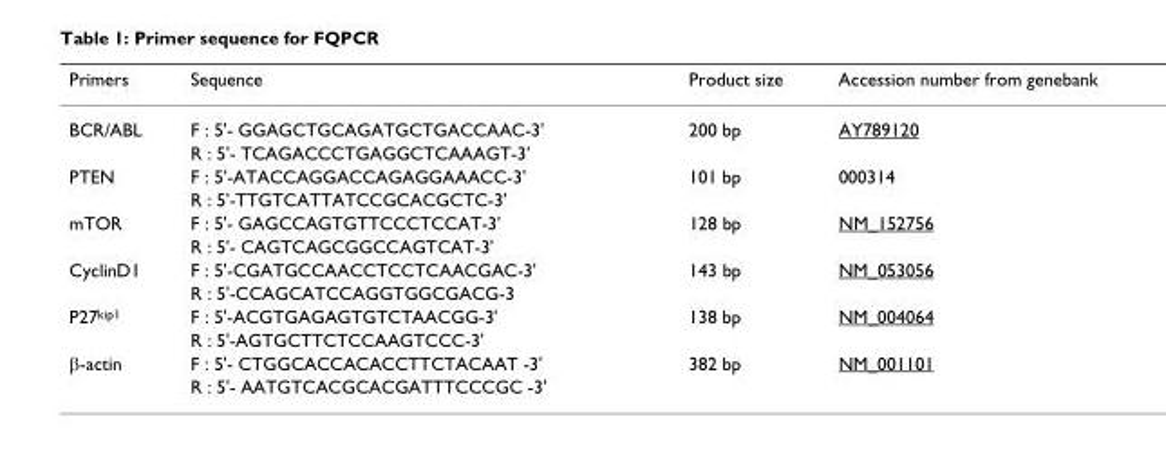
<table><thead><tr><td>Primers</td><td>Sequence</td><td>Product size</td><td>Accession number from genebank</td></tr></thead><tbody><tr><td rowspan="2">BCR/ABL</td><td>F : 5&#x27;- GGAGCTGCAGATGCTGACCAAC-3&#x27;</td><td>200 bp</td><td>AY789120</td></tr><tr><td>R : 5&#x27;- TCAGACCCTGAGGCTCAAAGT-3&#x27;</td><td></td><td></td></tr><tr><td rowspan="2">PTEN</td><td>F : 5&#x27;-ATACCAGGACCAGAGGAAACC-3&#x27;</td><td>101 bp</td><td>000314</td></tr><tr><td>R : 5&#x27;-TTGTCATTATCCGCACGCTC-3&#x27;</td><td></td><td></td></tr><tr><td rowspan="2">mTOR</td><td>F : 5&#x27;- GAGCCAGTGTTCCCTCCAT-3&#x27;</td><td>128 bp</td><td>NM_152756</td></tr><tr><td>R : 5&#x27;- CAGTCAGCGGCCAGTCAT-3&#x27;</td><td></td><td></td></tr><tr><td rowspan="2">CyclinD1</td><td>F : 5&#x27;-CGATGCCAACCTCCTCAACGAC-3&#x27;</td><td>143 bp</td><td>NM_053056</td></tr><tr><td>R : 5&#x27;-CCAGCATCCAGGTGGCGACG-3</td><td></td><td></td></tr><tr><td rowspan="2">P27<sup>kip1</sup></td><td>F : 5&#x27;-ACGTGAGAGTGTCTAACGG-3&#x27;</td><td>138 bp</td><td>NM_004064</td></tr><tr><td>R : 5&#x27;-AGTGCTTCTCCAAGTCCC-3&#x27;</td><td></td><td></td></tr><tr><td rowspan="2">β-actin</td><td>F : 5&#x27;- CTGGCACCACACCTTCTACAAT -3&#x27;</td><td>382 bp</td><td>NM_001101</td></tr><tr><td>R : 5&#x27;- AATGTCACGCACGATTTCCCGC -3&#x27;</td><td></td><td></td></tr></tbody></table>